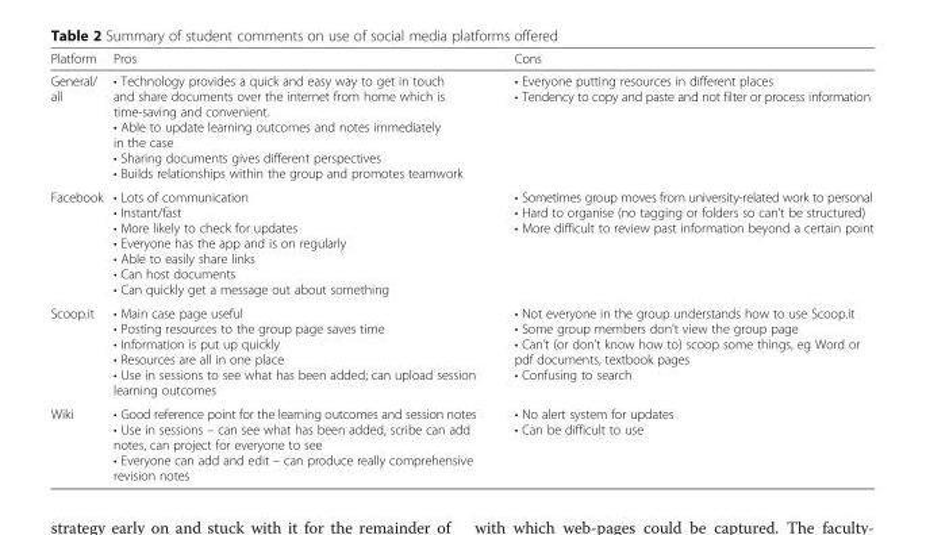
<table><thead><tr><td>Platform</td><td>Pros</td><td>Cons</td></tr></thead><tbody><tr><td>General/ all</td><td>• Technology provides a quick and easy way to get in touch and share documents over the internet from home which is time-saving and convenient. • Able to update learning outcomes and notes immediately in the case • Sharing documents gives different perspectives • Builds relationships within the group and promotes teamwork</td><td>• Everyone putting resources in different places • Tendency to copy and paste and not filter or process information</td></tr><tr><td>Facebook</td><td>• Lots of communication • Instant/fast • More likely to check for updates • Everyone has the app and is on regularly • Able to easily share links • Can host documents • Can quickly get a message out about something</td><td>• Sometimes group moves from university-related work to personal • Hard to organise (no tagging or folders so can’t be structured) • More difficult to review past information beyond a certain point</td></tr><tr><td>Scoop.it</td><td>• Main case page useful • Posting resources to the group page saves time • Information is put up quickly • Resources are all in one place • Use in sessions to see what has been added; can upload session learning outcomes</td><td>• Not everyone in the group understands how to use Scoop.it • Some group members don’t view the group page • Can’t (or don’t know how to) scoop some things, eg Word or pdf documents, textbook pages • Confusing to search</td></tr><tr><td>Wiki</td><td>• Good reference point for the learning outcomes and session notes • Use in sessions – can see what has been added, scribe can add notes, can project for everyone to see • Everyone can add and edit – can produce really comprehensive revision notes</td><td>• No alert system for updates • Can be difficult to use</td></tr></tbody></table>